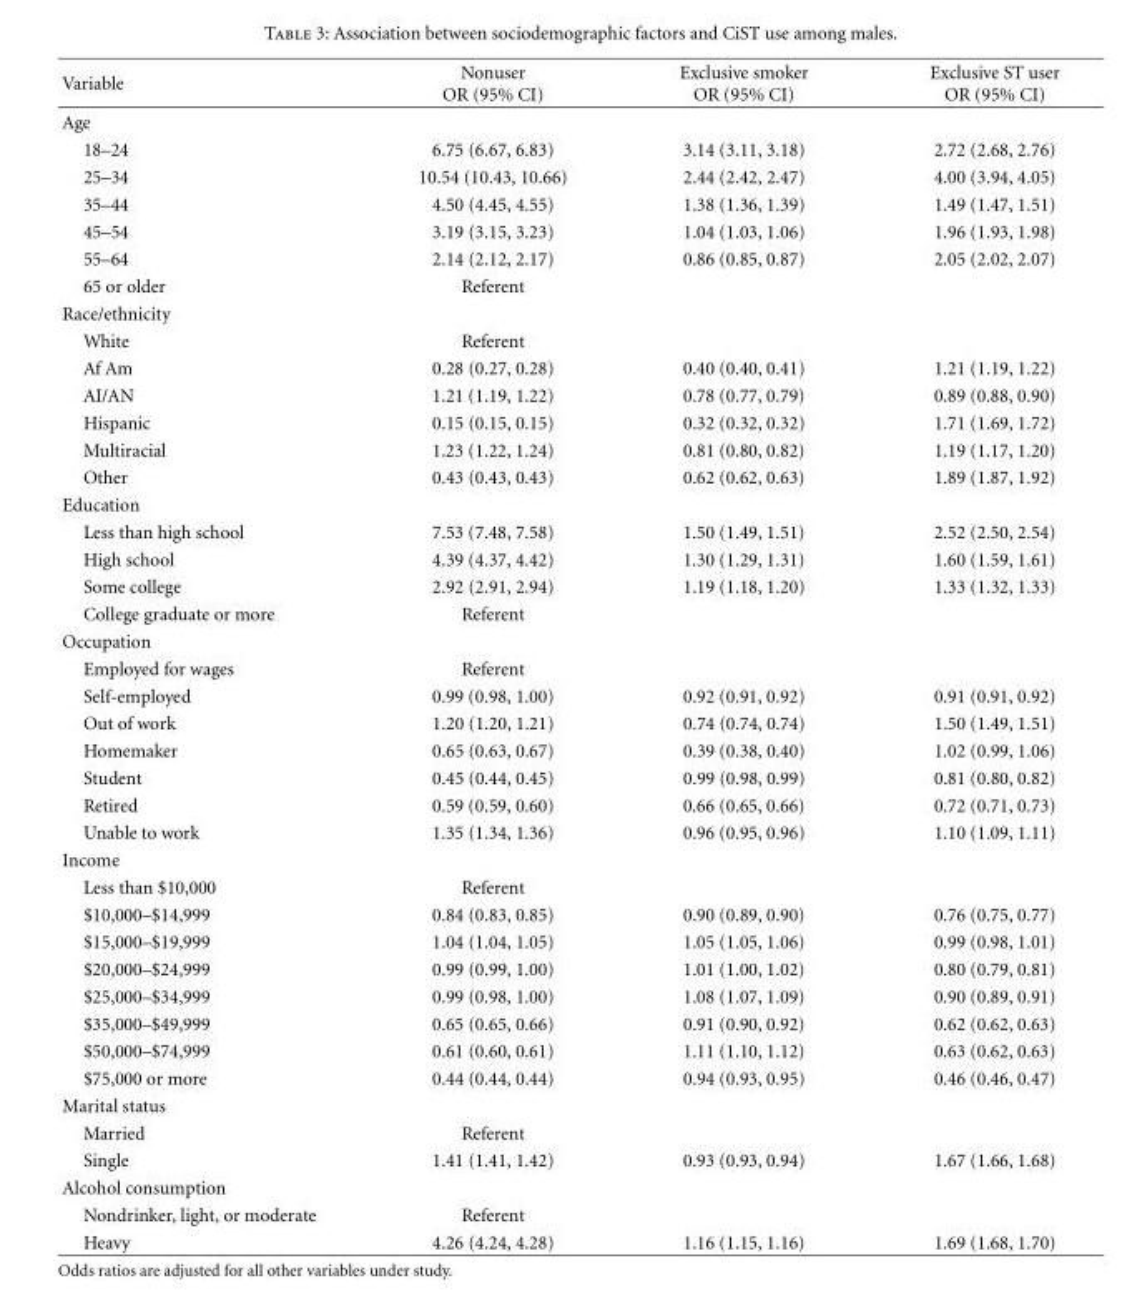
<table><thead><tr><td>Variable</td><td>Nonuser OR (95% CI)</td><td>Exclusive smoker OR (95% CI)</td><td>Exclusive ST user OR (95% CI)</td></tr></thead><tbody><tr><td colspan="4">Age</td></tr><tr><td>18–24</td><td>6.75 (6.67, 6.83)</td><td>3.14 (3.11, 3.18)</td><td>2.72 (2.68, 2.76)</td></tr><tr><td>25–34</td><td>10.54 (10.43, 10.66)</td><td>2.44 (2.42, 2.47)</td><td>4.00 (3.94, 4.05)</td></tr><tr><td>35–44</td><td>4.50 (4.45, 4.55)</td><td>1.38 (1.36, 1.39)</td><td>1.49 (1.47, 1.51)</td></tr><tr><td>45–54</td><td>3.19 (3.15, 3.23)</td><td>1.04 (1.03, 1.06)</td><td>1.96 (1.93, 1.98)</td></tr><tr><td>55–64</td><td>2.14 (2.12, 2.17)</td><td>0.86 (0.85, 0.87)</td><td>2.05 (2.02, 2.07)</td></tr><tr><td>65 or older</td><td>Referent</td><td></td><td></td></tr><tr><td colspan="4">Race/ethnicity</td></tr><tr><td>White</td><td>Referent</td><td></td><td></td></tr><tr><td>Af Am</td><td>0.28 (0.27, 0.28)</td><td>0.40 (0.40, 0.41)</td><td>1.21 (1.19, 1.22)</td></tr><tr><td>AI/AN</td><td>1.21 (1.19, 1.22)</td><td>0.78 (0.77, 0.79)</td><td>0.89 (0.88, 0.90)</td></tr><tr><td>Hispanic</td><td>0.15 (0.15, 0.15)</td><td>0.32 (0.32, 0.32)</td><td>1.71 (1.69, 1.72)</td></tr><tr><td>Multiracial</td><td>1.23 (1.22, 1.24)</td><td>0.81 (0.80, 0.82)</td><td>1.19 (1.17, 1.20)</td></tr><tr><td>Other</td><td>0.43 (0.43, 0.43)</td><td>0.62 (0.62, 0.63)</td><td>1.89 (1.87, 1.92)</td></tr><tr><td colspan="4">Education</td></tr><tr><td>Less than high school</td><td>7.53 (7.48, 7.58)</td><td>1.50 (1.49, 1.51)</td><td>2.52 (2.50, 2.54)</td></tr><tr><td>High school</td><td>4.39 (4.37, 4.42)</td><td>1.30 (1.29, 1.31)</td><td>1.60 (1.59, 1.61)</td></tr><tr><td>Some college</td><td>2.92 (2.91, 2.94)</td><td>1.19 (1.18, 1.20)</td><td>1.33 (1.32, 1.33)</td></tr><tr><td>College graduate or more</td><td>Referent</td><td></td><td></td></tr><tr><td colspan="4">Occupation</td></tr><tr><td>Employed for wages</td><td>Referent</td><td></td><td></td></tr><tr><td>Self-employed</td><td>0.99 (0.98, 1.00)</td><td>0.92 (0.91, 0.92)</td><td>0.91 (0.91, 0.92)</td></tr><tr><td>Out of work</td><td>1.20 (1.20, 1.21)</td><td>0.74 (0.74, 0.74)</td><td>1.50 (1.49, 1.51)</td></tr><tr><td>Homemaker</td><td>0.65 (0.63, 0.67)</td><td>0.39 (0.38, 0.40)</td><td>1.02 (0.99, 1.06)</td></tr><tr><td>Student</td><td>0.45 (0.44, 0.45)</td><td>0.99 (0.98, 0.99)</td><td>0.81 (0.80, 0.82)</td></tr><tr><td>Retired</td><td>0.59 (0.59, 0.60)</td><td>0.66 (0.65, 0.66)</td><td>0.72 (0.71, 0.73)</td></tr><tr><td>Unable to work</td><td>1.35 (1.34, 1.36)</td><td>0.96 (0.95, 0.96)</td><td>1.10 (1.09, 1.11)</td></tr><tr><td colspan="4">Income</td></tr><tr><td>Less than $10,000</td><td>Referent</td><td></td><td></td></tr><tr><td>$10,000–$14,999</td><td>0.84 (0.83, 0.85)</td><td>0.90 (0.89, 0.90)</td><td>0.76 (0.75, 0.77)</td></tr><tr><td>$15,000–$19,999</td><td>1.04 (1.04, 1.05)</td><td>1.05 (1.05, 1.06)</td><td>0.99 (0.98, 1.01)</td></tr><tr><td>$20,000–$24,999</td><td>0.99 (0.99, 1.00)</td><td>1.01 (1.00, 1.02)</td><td>0.80 (0.79, 0.81)</td></tr><tr><td>$25,000–$34,999</td><td>0.99 (0.98, 1.00)</td><td>1.08 (1.07, 1.09)</td><td>0.90 (0.89, 0.91)</td></tr><tr><td>$35,000–$49,999</td><td>0.65 (0.65, 0.66)</td><td>0.91 (0.90, 0.92)</td><td>0.62 (0.62, 0.63)</td></tr><tr><td>$50,000–$74,999</td><td>0.61 (0.60, 0.61)</td><td>1.11 (1.10, 1.12)</td><td>0.63 (0.62, 0.63)</td></tr><tr><td>$75,000 or more</td><td>0.44 (0.44, 0.44)</td><td>0.94 (0.93, 0.95)</td><td>0.46 (0.46, 0.47)</td></tr><tr><td colspan="4">Marital status</td></tr><tr><td>Married</td><td>Referent</td><td></td><td></td></tr><tr><td>Single</td><td>1.41 (1.41, 1.42)</td><td>0.93 (0.93, 0.94)</td><td>1.67 (1.66, 1.68)</td></tr><tr><td colspan="4">Alcohol consumption</td></tr><tr><td>Nondrinker, light, or moderate</td><td>Referent</td><td></td><td></td></tr><tr><td>Heavy</td><td>4.26 (4.24, 4.28)</td><td>1.16 (1.15, 1.16)</td><td>1.69 (1.68, 1.70)</td></tr></tbody></table>